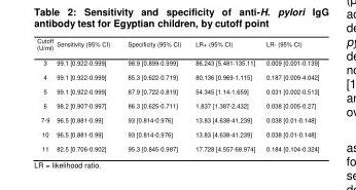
<table><thead><tr><td>Cutoff (U/ml)</td><td>Sensitivity (95% CI)</td><td>Specificity (95% CI)</td><td>LR+ (95% CI)</td><td>LR- (95% CI)</td></tr></thead><tbody><tr><td>3</td><td>99.1 [0.922-0.999]</td><td>98.9 [0.899-0.999]</td><td>86.243 [5.481-135.11]</td><td>0.009 [0.001-0.139]</td></tr><tr><td>4</td><td>99.1 [0.922-0.999]</td><td>85.3 [0.622-0.719]</td><td>80,136 [0.969-1.115]</td><td>0.187 [0.009-4.042]</td></tr><tr><td>5</td><td>99.1 [0.922-0.999]</td><td>87.9 [0.722-0.819]</td><td>54.345 [1.14-1.659]</td><td>0.031 [0.002-0.513]</td></tr><tr><td>6</td><td>98.2 [0.907-0.997]</td><td>86.3 [0.625-0.711]</td><td>1.837 [1.387-2.432]</td><td>0.038 [0.005-0.27]</td></tr><tr><td>7-9</td><td>96.5 [0.881-0.99]</td><td>93 [0.814-0.976]</td><td>13.83 [4.638-41.239]</td><td>0.038 [0.01-0.148]</td></tr><tr><td>10</td><td>96.5 [0.881-0.99]</td><td>93 [0.814-0.976]</td><td>13.83 [4.638-41.239]</td><td>0.038 [0.01-0.148]</td></tr><tr><td>11</td><td>82.5 [0.706-0.902]</td><td>95.3 [0.845-0.987]</td><td>17.728 [4.557-68.974]</td><td>0.184 [0.104-0.324]</td></tr></tbody></table>